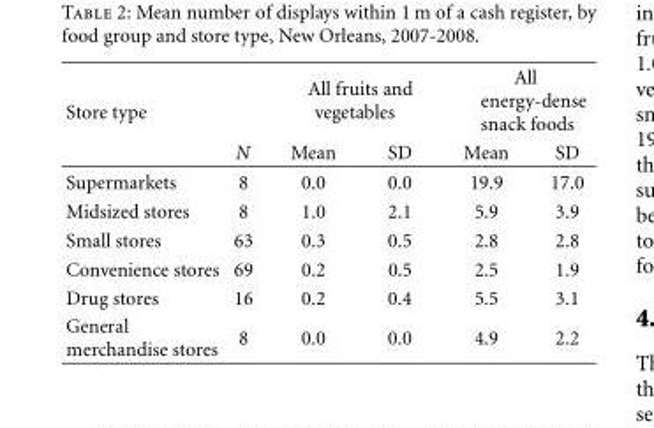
<table><thead><tr><td rowspan="2">Store type</td><td rowspan="2">N</td><td colspan="2">All fruits and vegetables</td><td colspan="2">All energy-dense snack foods</td></tr><tr><td>Mean</td><td>SD</td><td>Mean</td><td>SD</td></tr></thead><tbody><tr><td>Supermarkets</td><td>8</td><td>0.0</td><td>0.0</td><td>19.9</td><td>17.0</td></tr><tr><td>Midsized stores</td><td>8</td><td>1.0</td><td>2.1</td><td>5.9</td><td>3.9</td></tr><tr><td>Small stores</td><td>63</td><td>0.3</td><td>0.5</td><td>2.8</td><td>2.8</td></tr><tr><td>Convenience stores</td><td>69</td><td>0.2</td><td>0.5</td><td>2.5</td><td>1.9</td></tr><tr><td>Drug stores</td><td>16</td><td>0.2</td><td>0.4</td><td>5.5</td><td>3.1</td></tr><tr><td>General merchandise stores</td><td>8</td><td>0.0</td><td>0.0</td><td>4.9</td><td>2.2</td></tr></tbody></table>